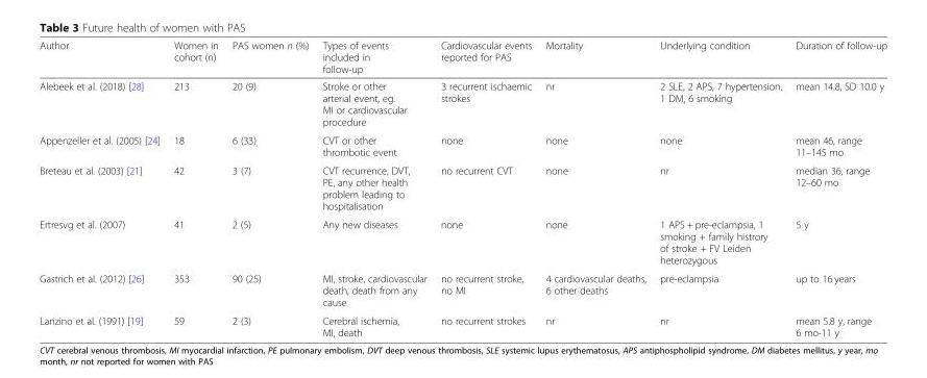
<table><thead><tr><td>Author</td><td>Women in cohort (n)</td><td>PAS women n (%)</td><td>Types of events included in follow-up</td><td>Cardiovascular events reported for PAS</td><td>Mortality</td><td>Underlying condition</td><td>Duration of follow-up</td></tr></thead><tbody><tr><td>Alebeek et al. (2018) [28]</td><td>213</td><td>20 (9)</td><td>Stroke or other arterial event, eg. MI or cardiovascular procedure</td><td>3 recurrent ischaemic strokes</td><td>nr</td><td>2 SLE, 2 APS, 7 hypertension, 1 DM, 6 smoking</td><td>mean 14.8, SD 10.0 y</td></tr><tr><td>Appenzeller et al. (2005) [24]</td><td>18</td><td>6 (33)</td><td>CVT or other thrombotic event</td><td>none</td><td>none</td><td>none</td><td>mean 46, range 11–145 mo</td></tr><tr><td>Breteau et al. (2003) [21]</td><td>42</td><td>3 (7)</td><td>CVT recurrence, DVT, PE, any other health problem leading to hospitalisation</td><td>no recurrent CVT</td><td>none</td><td>nr</td><td>median 36, range 12–60 mo</td></tr><tr><td>Ertresvg et al. (2007)</td><td>41</td><td>2 (5)</td><td>Any new diseases</td><td>none</td><td>none</td><td>1 APS + pre-eclampsia, 1 smoking + family histrory of stroke + FV Leiden heterozygous</td><td>5 y</td></tr><tr><td>Gastrich et al. (2012) [26]</td><td>353</td><td>90 (25)</td><td>MI, stroke, cardiovascular death, death from any cause</td><td>no recurrent stroke, no MI</td><td>4 cardiovascular deaths, 6 other deaths</td><td>pre-eclampsia</td><td>up to 16 years</td></tr><tr><td>Lanzino et al. (1991) [19]</td><td>59</td><td>2 (3)</td><td>Cerebral ischemia, MI, death</td><td>no recurrent strokes</td><td>nr</td><td>nr</td><td>mean 5.8 y, range 6 mo-11 y</td></tr></tbody></table>